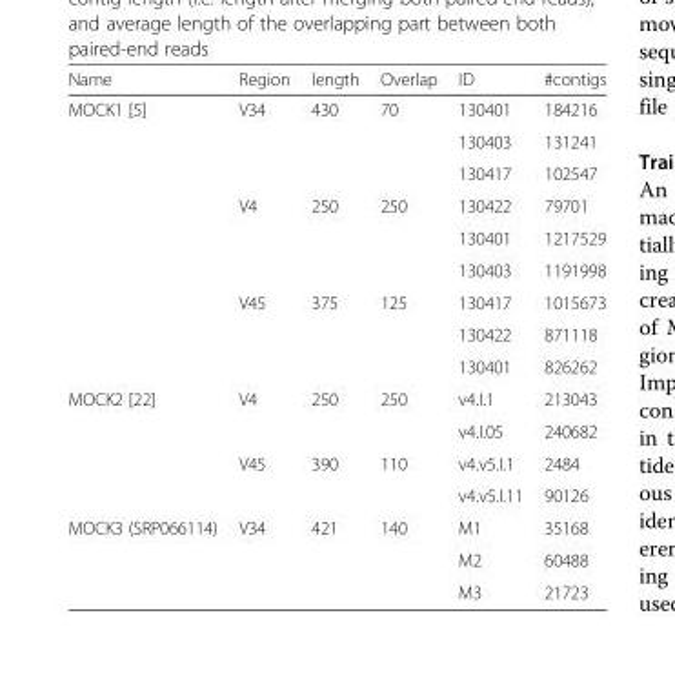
<table><thead><tr><td>Name</td><td>Region</td><td>length</td><td>Overlap</td><td>ID</td><td>#contigs</td></tr></thead><tbody><tr><td rowspan="9">MOCK1 [5]</td><td rowspan="3">V34</td><td rowspan="3">430</td><td rowspan="3">70</td><td>130401</td><td>184216</td></tr><tr><td>130403</td><td>131241</td></tr><tr><td>130417</td><td>102547</td></tr><tr><td rowspan="3">V4</td><td rowspan="3">250</td><td rowspan="3">250</td><td>130422</td><td>79701</td></tr><tr><td>130401</td><td>1217529</td></tr><tr><td>130403</td><td>1191998</td></tr><tr><td rowspan="3">V45</td><td rowspan="3">375</td><td rowspan="3">125</td><td>130417</td><td>1015673</td></tr><tr><td>130422</td><td>871118</td></tr><tr><td>130401</td><td>826262</td></tr><tr><td rowspan="4">MOCK2 [22]</td><td rowspan="2">V4</td><td rowspan="2">250</td><td rowspan="2">250</td><td>v4.I.1</td><td>213043</td></tr><tr><td>v4.I.05</td><td>240682</td></tr><tr><td rowspan="2">V45</td><td rowspan="2">390</td><td rowspan="2">110</td><td>v4.v5.I.1</td><td>2484</td></tr><tr><td>v4.v5.I.11</td><td>90126</td></tr><tr><td rowspan="3">MOCK3 (SRP066114)</td><td rowspan="3">V34</td><td rowspan="3">421</td><td rowspan="3">140</td><td>M1</td><td>35168</td></tr><tr><td>M2</td><td>60488</td></tr><tr><td>M3</td><td>21723</td></tr></tbody></table>